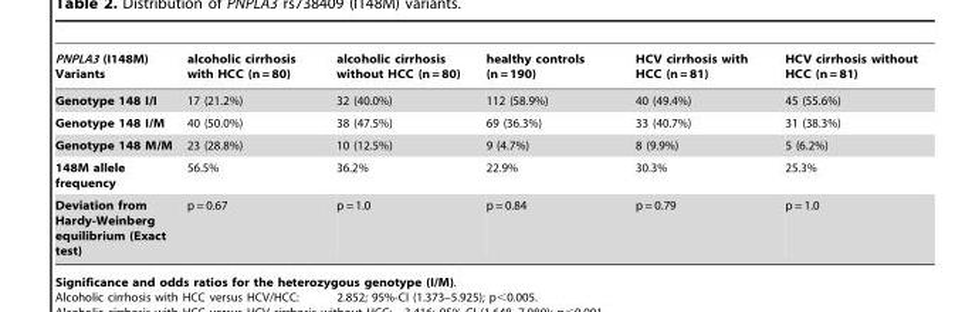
<table><thead><tr><td>PNPLA3 (I148M) Variants</td><td>alcoholic cirrhosis with HCC (n = 80)</td><td>alcoholic cirrhosis without HCC (n = 80)</td><td>healthy controls (n = 190)</td><td>HCV cirrhosis with HCC (n = 81)</td><td>HCV cirrhosis without HCC (n = 81)</td></tr></thead><tbody><tr><td>Genotype 148 I/I</td><td>17 (21.2%)</td><td>32 (40.0%)</td><td>112 (58.9%)</td><td>40 (49.4%)</td><td>45 (55.6%)</td></tr><tr><td>Genotype 148 I/M</td><td>40 (50.0%)</td><td>38 (47.5%)</td><td>69 (36.3%)</td><td>33 (40.7%)</td><td>31 (38.3%)</td></tr><tr><td>Genotype 148 M/M</td><td>23 (28.8%)</td><td>10 (12.5%)</td><td>9 (4.7%)</td><td>8 (9.9%)</td><td>5 (6.2%)</td></tr><tr><td>148M allele frequency</td><td>56.5%</td><td>36.2%</td><td>22.9%</td><td>30.3%</td><td>25.3%</td></tr><tr><td>Deviation from Hardy-Weinberg equilibrium (Exact test)</td><td>p = 0.67</td><td>p = 1.0</td><td>p = 0.84</td><td>p = 0.79</td><td>p = 1.0</td></tr></tbody></table>